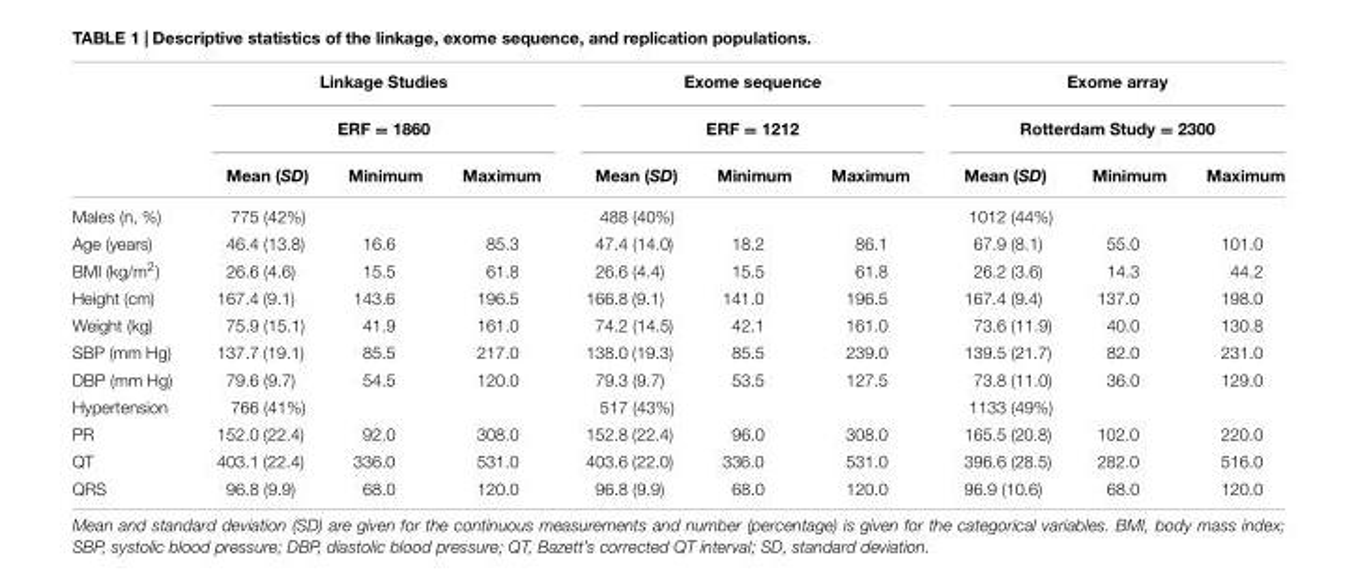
<table><thead><tr><td rowspan="3"></td><td rowspan="2" colspan="3">Linkage Studies ERF = 1860</td><td rowspan="2" colspan="3">Exome sequence ERF = 1212</td><td rowspan="2" colspan="3">Exome array Rotterdam Study = 2300</td></tr><tr></tr><tr><td>Mean (SD)</td><td>Minimum</td><td>Maximum</td><td>Mean (SD)</td><td>Minimum</td><td>Maximum</td><td>Mean (SD)</td><td>Minimum</td><td>Maximum</td></tr></thead><tbody><tr><td>Males (n, %)</td><td>775 (42%)</td><td></td><td></td><td>488 (40%)</td><td></td><td></td><td>1012 (44%)</td><td></td><td></td></tr><tr><td>Age (years)</td><td>46.4 (13.8)</td><td>16.6</td><td>85.3</td><td>47.4 (14.0)</td><td>18.2</td><td>86.1</td><td>67.9 (8.1)</td><td>55.0</td><td>101.0</td></tr><tr><td>BMI (kg/m<sup>2</sup>)</td><td>26.6 (4.6)</td><td>15.5</td><td>61.8</td><td>26.6 (4.4)</td><td>15.5</td><td>61.8</td><td>26.2 (3.6)</td><td>14.3</td><td>44.2</td></tr><tr><td>Height (cm)</td><td>167.4 (9.1)</td><td>143.6</td><td>196.5</td><td>166.8 (9.1)</td><td>141.0</td><td>196.5</td><td>167.4 (9.4)</td><td>137.0</td><td>198.0</td></tr><tr><td>Weight (kg)</td><td>75.9 (15.1)</td><td>41.9</td><td>161.0</td><td>74.2 (14.5)</td><td>42.1</td><td>161.0</td><td>73.6 (11.9)</td><td>40.0</td><td>130.8</td></tr><tr><td>SBP (mm Hg)</td><td>137.7 (19.1)</td><td>85.5</td><td>217.0</td><td>138.0 (19.3)</td><td>85.5</td><td>239.0</td><td>139.5 (21.7)</td><td>82.0</td><td>231.0</td></tr><tr><td>DBP (mm Hg)</td><td>79.6 (9.7)</td><td>54.5</td><td>120.0</td><td>79.3 (9.7)</td><td>53.5</td><td>127.5</td><td>73.8 (11.0)</td><td>36.0</td><td>129.0</td></tr><tr><td>Hypertension</td><td>766 (41%)</td><td></td><td></td><td>517 (43%)</td><td></td><td></td><td>1133 (49%)</td><td></td><td></td></tr><tr><td>PR</td><td>152.0 (22.4)</td><td>92.0</td><td>308.0</td><td>152.8 (22.4)</td><td>96.0</td><td>308.0</td><td>165.5 (20.8)</td><td>102.0</td><td>220.0</td></tr><tr><td>QT</td><td>403.1 (22.4)</td><td>336.0</td><td>531.0</td><td>403.6 (22.0)</td><td>336.0</td><td>531.0</td><td>396.6 (28.5)</td><td>282.0</td><td>516.0</td></tr><tr><td>QRS</td><td>96.8 (9.9)</td><td>68.0</td><td>120.0</td><td>96.8 (9.9)</td><td>68.0</td><td>120.0</td><td>96.9 (10.6)</td><td>68.0</td><td>120.0</td></tr></tbody></table>